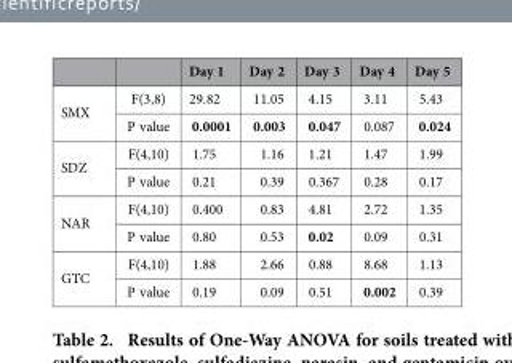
<table><thead><tr><td></td><td></td><td>Day 1</td><td>Day 2</td><td>Day 3</td><td>Day 4</td><td>Day 5</td></tr></thead><tbody><tr><td rowspan="2">SMX</td><td>F(3,8)</td><td>29.82</td><td>11.05</td><td>4.15</td><td>3.11</td><td>5.43</td></tr><tr><td>P value</td><td>0.0001</td><td>0.003</td><td>0.047</td><td>0.087</td><td>0.024</td></tr><tr><td rowspan="2">SDZ</td><td>F(4,10)</td><td>1.75</td><td>1.16</td><td>1.21</td><td>1.47</td><td>1.99</td></tr><tr><td>P value</td><td>0.21</td><td>0.39</td><td>0.367</td><td>0.28</td><td>0.17</td></tr><tr><td rowspan="2">NAR</td><td>F(4,10)</td><td>0.400</td><td>0.83</td><td>4.81</td><td>2.72</td><td>1.35</td></tr><tr><td>P value</td><td>0.80</td><td>0.53</td><td>0.02</td><td>0.09</td><td>0.31</td></tr><tr><td rowspan="2">GTC</td><td>F(4,10)</td><td>1.88</td><td>2.66</td><td>0.88</td><td>8.68</td><td>1.13</td></tr><tr><td>P value</td><td>0.19</td><td>0.09</td><td>0.51</td><td>0.002</td><td>0.39</td></tr></tbody></table>